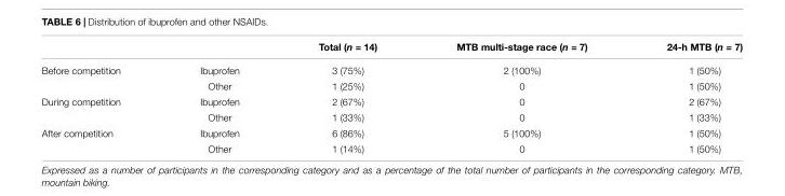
<table><thead><tr><td></td><td></td><td>Total (n = 14)</td><td>MTB multi-stage race (n = 7)</td><td>24-h MTB (n = 7)</td></tr></thead><tbody><tr><td rowspan="2">Before competition</td><td>Ibuprofen</td><td>3 (75%)</td><td>2 (100%)</td><td>1 (50%)</td></tr><tr><td>Other</td><td>1 (25%)</td><td>0</td><td>1 (50%)</td></tr><tr><td rowspan="2">During competition</td><td>Ibuprofen</td><td>2 (67%)</td><td>0</td><td>2 (67%)</td></tr><tr><td>Other</td><td>1 (33%)</td><td>0</td><td>1 (33%)</td></tr><tr><td rowspan="2">After competition</td><td>Ibuprofen</td><td>6 (86%)</td><td>5 (100%)</td><td>1 (50%)</td></tr><tr><td>Other</td><td>1 (14%)</td><td>0</td><td>1 (50%)</td></tr></tbody></table>